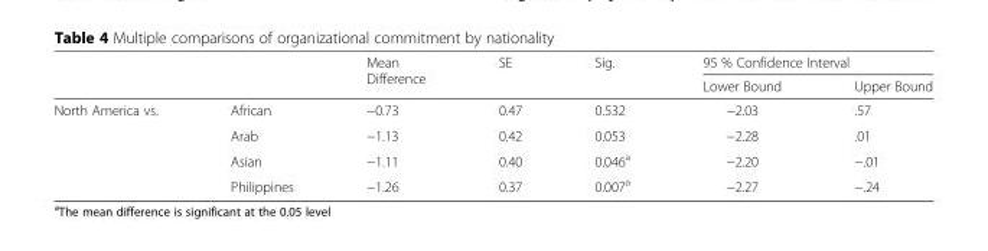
<table><thead><tr><td rowspan="2"></td><td rowspan="2"></td><td rowspan="2">Mean Difference</td><td rowspan="2">SE</td><td rowspan="2">Sig.</td><td colspan="2">95 % Confidence Interval</td></tr><tr><td>Lower Bound</td><td>Upper Bound</td></tr></thead><tbody><tr><td rowspan="4">North America vs.</td><td>African</td><td>−0.73</td><td>0.47</td><td>0.532</td><td>−2.03</td><td>.57</td></tr><tr><td>Arab</td><td>−1.13</td><td>0.42</td><td>0.053</td><td>−2.28</td><td>.01</td></tr><tr><td>Asian</td><td>−1.11</td><td>0.40</td><td>0.046<sup>a</sup></td><td>−2.20</td><td>−.01</td></tr><tr><td>Philippines</td><td>−1.26</td><td>0.37</td><td>0.007<sup>a</sup></td><td>−2.27</td><td>−.24</td></tr></tbody></table>